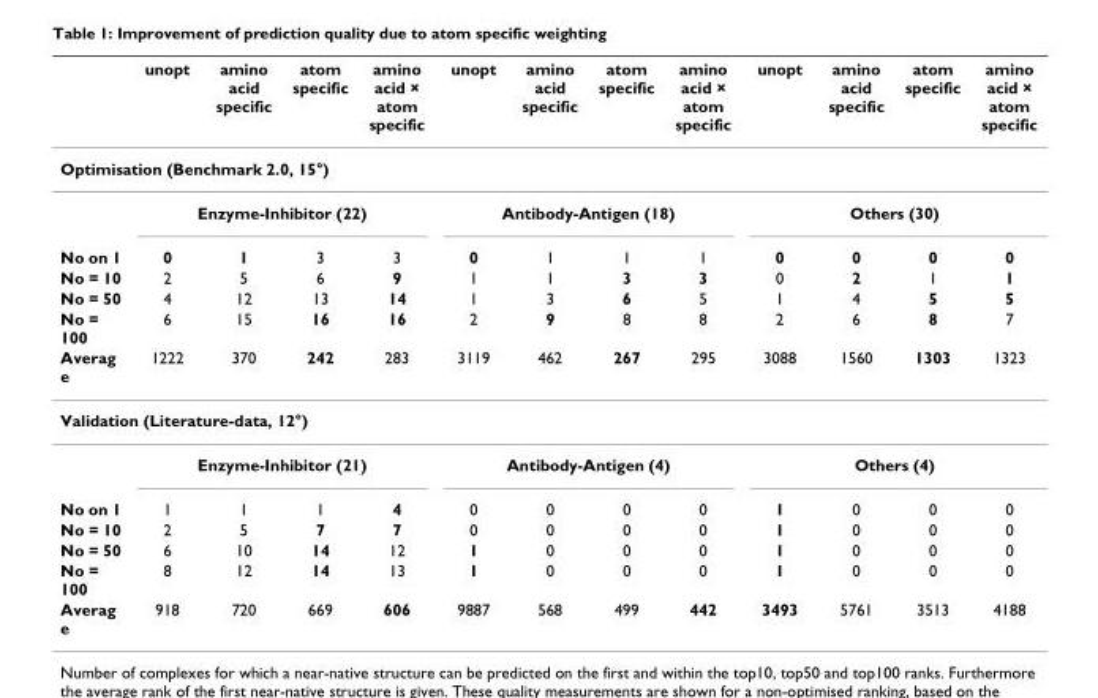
<table><thead><tr><td></td><td>unopt</td><td>amino acid specific</td><td>atom specific</td><td>amino acid × atom specific</td><td>unopt</td><td>amino acid specific</td><td>atom specific</td><td>amino acid × atom specific</td><td>unopt</td><td>amino acid specific</td><td>atom specific</td><td>amino acid × atom specific</td></tr></thead><tbody><tr><td colspan="13">Optimisation (Benchmark 2.0, 15°)</td></tr><tr><td></td><td colspan="4">Enzyme-Inhibitor (22)</td><td colspan="4">Antibody-Antigen (18)</td><td colspan="4">Others (30)</td></tr><tr><td>No on 1</td><td>0</td><td>1</td><td>3</td><td>3</td><td>0</td><td>1</td><td>1</td><td>1</td><td>0</td><td>0</td><td>0</td><td>0</td></tr><tr><td>No = 10</td><td>2</td><td>5</td><td>6</td><td>9</td><td>1</td><td>1</td><td>3</td><td>3</td><td>0</td><td>2</td><td>1</td><td>1</td></tr><tr><td>No = 50</td><td>4</td><td>12</td><td>13</td><td>14</td><td>1</td><td>3</td><td>6</td><td>5</td><td>1</td><td>4</td><td>5</td><td>5</td></tr><tr><td>No = 100</td><td>6</td><td>15</td><td>16</td><td>16</td><td>2</td><td>9</td><td>8</td><td>8</td><td>2</td><td>6</td><td>8</td><td>7</td></tr><tr><td>Averag e</td><td>1222</td><td>370</td><td>242</td><td>283</td><td>3119</td><td>462</td><td>267</td><td>295</td><td>3088</td><td>1560</td><td>1303</td><td>1323</td></tr><tr><td colspan="13">Validation (Literature-data, 12°)</td></tr><tr><td></td><td colspan="4">Enzyme-Inhibitor (21)</td><td colspan="4">Antibody-Antigen (4)</td><td colspan="4">Others (4)</td></tr><tr><td>No on 1</td><td>1</td><td>1</td><td>1</td><td>4</td><td>0</td><td>0</td><td>0</td><td>0</td><td>1</td><td>0</td><td>0</td><td>0</td></tr><tr><td>No = 10</td><td>2</td><td>5</td><td>7</td><td>7</td><td>0</td><td>0</td><td>0</td><td>0</td><td>1</td><td>0</td><td>0</td><td>0</td></tr><tr><td>No = 50</td><td>6</td><td>10</td><td>14</td><td>12</td><td>1</td><td>0</td><td>0</td><td>0</td><td>1</td><td>0</td><td>0</td><td>0</td></tr><tr><td>No = 100</td><td>8</td><td>12</td><td>14</td><td>13</td><td>1</td><td>0</td><td>0</td><td>0</td><td>1</td><td>0</td><td>0</td><td>0</td></tr><tr><td>Averag e</td><td>918</td><td>720</td><td>669</td><td>606</td><td>9887</td><td>568</td><td>499</td><td>442</td><td>3493</td><td>5761</td><td>3513</td><td>4188</td></tr></tbody></table>